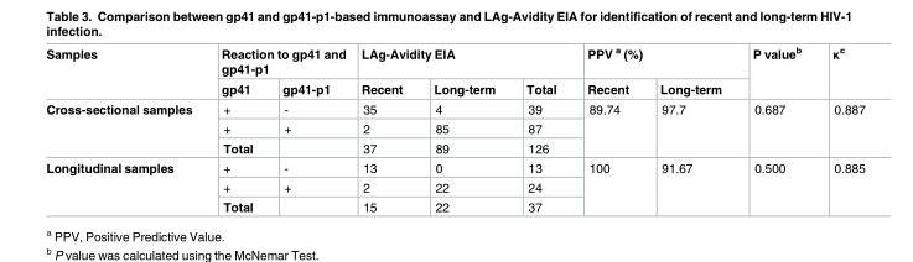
<table><thead><tr><td rowspan="2">Samples</td><td colspan="2">Reaction to gp41 and gp41-p1</td><td colspan="3">LAg-Avidity EIA</td><td colspan="2">PPV <sup>a</sup> (%)</td><td rowspan="2">P value<sup>b</sup></td><td rowspan="2">κ<sup>c</sup></td></tr><tr><td>gp41</td><td>gp41-p1</td><td>Recent</td><td>Long-term</td><td>Total</td><td>Recent</td><td>Long-term</td></tr></thead><tbody><tr><td rowspan="3">Cross-sectional samples</td><td>+</td><td>-</td><td>35</td><td>4</td><td>39</td><td rowspan="3">89.74</td><td rowspan="3">97.7</td><td rowspan="3">0.687</td><td rowspan="3">0.887</td></tr><tr><td>+</td><td>+</td><td>2</td><td>85</td><td>87</td></tr><tr><td>Total</td><td></td><td>37</td><td>89</td><td>126</td></tr><tr><td rowspan="3">Longitudinal samples</td><td>+</td><td>-</td><td>13</td><td>0</td><td>13</td><td rowspan="3">100</td><td rowspan="3">91.67</td><td rowspan="3">0.500</td><td rowspan="3">0.885</td></tr><tr><td>+</td><td>+</td><td>2</td><td>22</td><td>24</td></tr><tr><td>Total</td><td></td><td>15</td><td>22</td><td>37</td></tr></tbody></table>